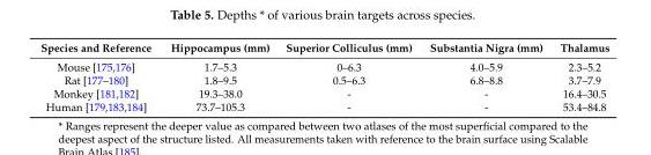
<table><thead><tr><td>Species and Reference</td><td>Hippocampus (mm)</td><td>Superior Colliculus (mm)</td><td>Substantia Nigra (mm)</td><td>Thalamus</td></tr></thead><tbody><tr><td>Mouse [175,176]</td><td>1.7–5.3</td><td>0–6.3</td><td>4.0–5.9</td><td>2.3–5.2</td></tr><tr><td>Rat [177–180]</td><td>1.8–9.5</td><td>0.5–6.3</td><td>6.8–8.8</td><td>3.7–7.9</td></tr><tr><td>Monkey [181,182]</td><td>19.3–38.0</td><td>-</td><td>-</td><td>16.4–30.5</td></tr><tr><td>Human [179,183,184]</td><td>73.7–105.3</td><td>-</td><td>-</td><td>53.4–84.8</td></tr></tbody></table>